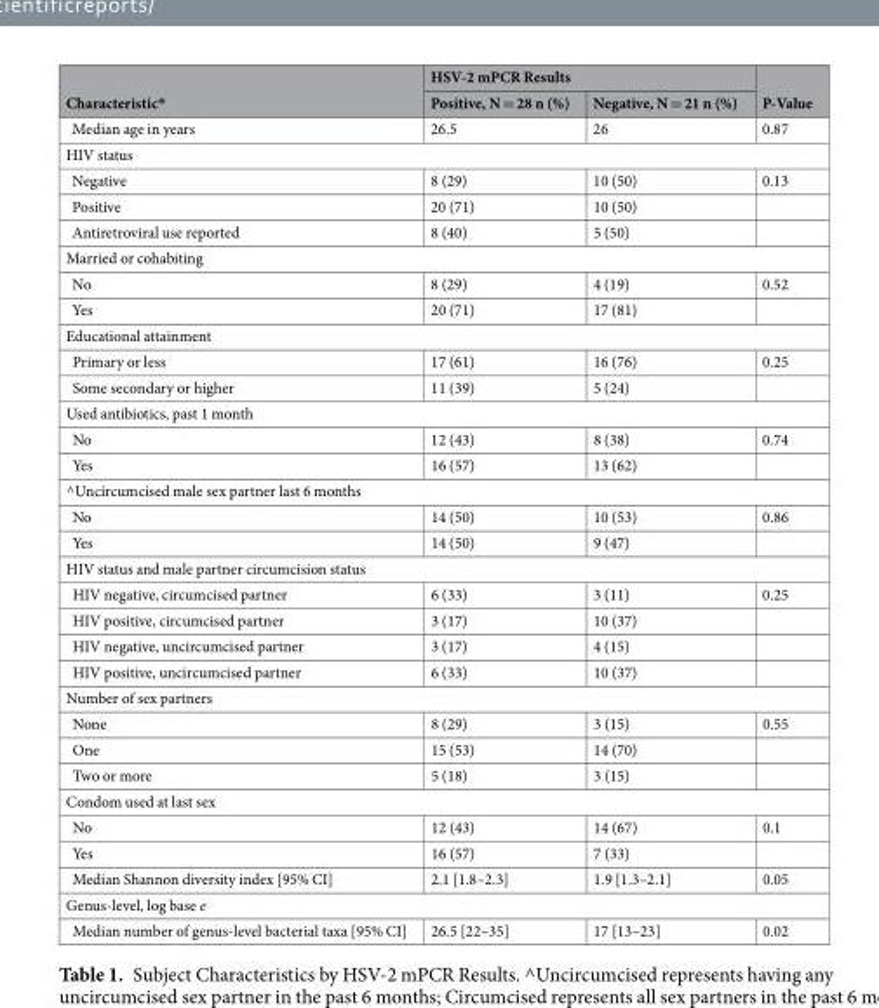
<table><thead><tr><td rowspan="2">Characteristic*</td><td colspan="2">HSV-2 mPCR Results</td><td rowspan="2">P-Value</td></tr><tr><td>Positive, N = 28 n (%)</td><td>Negative, N = 21 n (%)</td></tr></thead><tbody><tr><td>Median age in years</td><td>26.5</td><td>26</td><td>0.87</td></tr><tr><td colspan="4">HIV status</td></tr><tr><td>Negative</td><td>8 (29)</td><td>10 (50)</td><td>0.13</td></tr><tr><td>Positive</td><td>20 (71)</td><td>10 (50)</td><td></td></tr><tr><td>Antiretroviral use reported</td><td>8 (40)</td><td>5 (50)</td><td></td></tr><tr><td colspan="4">Married or cohabiting</td></tr><tr><td>No</td><td>8 (29)</td><td>4 (19)</td><td>0.52</td></tr><tr><td>Yes</td><td>20 (71)</td><td>17 (81)</td><td></td></tr><tr><td colspan="4">Educational attainment</td></tr><tr><td>Primary or less</td><td>17 (61)</td><td>16 (76)</td><td>0.25</td></tr><tr><td>Some secondary or higher</td><td>11 (39)</td><td>5 (24)</td><td></td></tr><tr><td colspan="4">Used antibiotics, past 1 month</td></tr><tr><td>No</td><td>12 (43)</td><td>8 (38)</td><td>0.74</td></tr><tr><td>Yes</td><td>16 (57)</td><td>13 (62)</td><td></td></tr><tr><td colspan="4">^Uncircumcised male sex partner last 6 months</td></tr><tr><td>No</td><td>14 (50)</td><td>10 (53)</td><td>0.86</td></tr><tr><td>Yes</td><td>14 (50)</td><td>9 (47)</td><td></td></tr><tr><td colspan="4">HIV status and male partner circumcision status</td></tr><tr><td>HIV negative, circumcised partner</td><td>6 (33)</td><td>3 (11)</td><td>0.25</td></tr><tr><td>HIV positive, circumcised partner</td><td>3 (17)</td><td>10 (37)</td><td></td></tr><tr><td>HIV negative, uncircumcised partner</td><td>3 (17)</td><td>4 (15)</td><td></td></tr><tr><td>HIV positive, uncircumcised partner</td><td>6 (33)</td><td>10 (37)</td><td></td></tr><tr><td colspan="4">Number of sex partners</td></tr><tr><td>None</td><td>8 (29)</td><td>3 (15)</td><td>0.55</td></tr><tr><td>One</td><td>15 (53)</td><td>14 (70)</td><td></td></tr><tr><td>Two or more</td><td>5 (18)</td><td>3 (15)</td><td></td></tr><tr><td colspan="4">Condom used at last sex</td></tr><tr><td>No</td><td>12 (43)</td><td>14 (67)</td><td>0.1</td></tr><tr><td>Yes</td><td>16 (57)</td><td>7 (33)</td><td></td></tr><tr><td>Median Shannon diversity index [95% CI]</td><td>2.1 [1.8–2.3]</td><td>1.9 [1.3–2.1]</td><td>0.05</td></tr><tr><td colspan="4">Genus-level, log base e</td></tr><tr><td>Median number of genus-level bacterial taxa [95% CI]</td><td>26.5 [22–35]</td><td>17 [13–23]</td><td>0.02</td></tr></tbody></table>